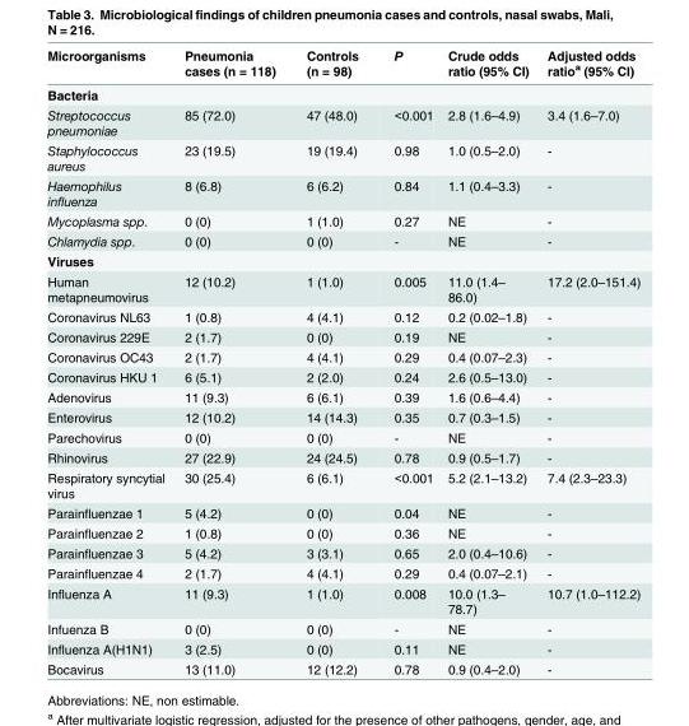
<table><thead><tr><td>Microorganisms</td><td>Pneumonia cases (n = 118)</td><td>Controls (n = 98)</td><td>P</td><td>Crude odds ratio (95% CI)</td><td>Adjusted odds ratio<sup>a</sup> (95% CI)</td></tr></thead><tbody><tr><td colspan="6">Bacteria</td></tr><tr><td>Streptococcus pneumoniae</td><td>85 (72.0)</td><td>47 (48.0)</td><td>&lt;0.001</td><td>2.8 (1.6–4.9)</td><td>3.4 (1.6–7.0)</td></tr><tr><td>Staphylococcus aureus</td><td>23 (19.5)</td><td>19 (19.4)</td><td>0.98</td><td>1.0 (0.5–2.0)</td><td>-</td></tr><tr><td>Haemophilus influenza</td><td>8 (6.8)</td><td>6 (6.2)</td><td>0.84</td><td>1.1 (0.4–3.3)</td><td>-</td></tr><tr><td>Mycoplasma spp.</td><td>0 (0)</td><td>1 (1.0)</td><td>0.27</td><td>NE</td><td>-</td></tr><tr><td>Chlamydia spp.</td><td>0 (0)</td><td>0 (0)</td><td>-</td><td>NE</td><td>-</td></tr><tr><td colspan="6">Viruses</td></tr><tr><td>Human metapneumovirus</td><td>12 (10.2)</td><td>1 (1.0)</td><td>0.005</td><td>11.0 (1.4– 86.0)</td><td>17.2 (2.0–151.4)</td></tr><tr><td>Coronavirus NL63</td><td>1 (0.8)</td><td>4 (4.1)</td><td>0.12</td><td>0.2 (0.02–1.8)</td><td>-</td></tr><tr><td>Coronavirus 229E</td><td>2 (1.7)</td><td>0 (0)</td><td>0.19</td><td>NE</td><td>-</td></tr><tr><td>Coronavirus OC43</td><td>2 (1.7)</td><td>4 (4.1)</td><td>0.29</td><td>0.4 (0.07–2.3)</td><td>-</td></tr><tr><td>Coronavirus HKU 1</td><td>6 (5.1)</td><td>2 (2.0)</td><td>0.24</td><td>2.6 (0.5–13.0)</td><td>-</td></tr><tr><td>Adenovirus</td><td>11 (9.3)</td><td>6 (6.1)</td><td>0.39</td><td>1.6 (0.6–4.4)</td><td>-</td></tr><tr><td>Enterovirus</td><td>12 (10.2)</td><td>14 (14.3)</td><td>0.35</td><td>0.7 (0.3–1.5)</td><td>-</td></tr><tr><td>Parechovirus</td><td>0 (0)</td><td>0 (0)</td><td>-</td><td>NE</td><td>-</td></tr><tr><td>Rhinovirus</td><td>27 (22.9)</td><td>24 (24.5)</td><td>0.78</td><td>0.9 (0.5–1.7)</td><td>-</td></tr><tr><td>Respiratory syncytial virus</td><td>30 (25.4)</td><td>6 (6.1)</td><td>&lt;0.001</td><td>5.2 (2.1–13.2)</td><td>7.4 (2.3–23.3)</td></tr><tr><td>Parainfluenzae 1</td><td>5 (4.2)</td><td>0 (0)</td><td>0.04</td><td>NE</td><td>-</td></tr><tr><td>Parainfluenzae 2</td><td>1 (0.8)</td><td>0 (0)</td><td>0.36</td><td>NE</td><td>-</td></tr><tr><td>Parainfluenzae 3</td><td>5 (4.2)</td><td>3 (3.1)</td><td>0.65</td><td>2.0 (0.4–10.6)</td><td>-</td></tr><tr><td>Parainfluenzae 4</td><td>2 (1.7)</td><td>4 (4.1)</td><td>0.29</td><td>0.4 (0.07–2.1)</td><td>-</td></tr><tr><td>Influenza A</td><td>11 (9.3)</td><td>1 (1.0)</td><td>0.008</td><td>10.0 (1.3– 78.7)</td><td>10.7 (1.0–112.2)</td></tr><tr><td>Infuenza B</td><td>0 (0)</td><td>0 (0)</td><td>-</td><td>NE</td><td>-</td></tr><tr><td>Influenza A(H1N1)</td><td>3 (2.5)</td><td>0 (0)</td><td>0.11</td><td>NE</td><td>-</td></tr><tr><td>Bocavirus</td><td>13 (11.0)</td><td>12 (12.2)</td><td>0.78</td><td>0.9 (0.4–2.0)</td><td>-</td></tr></tbody></table>